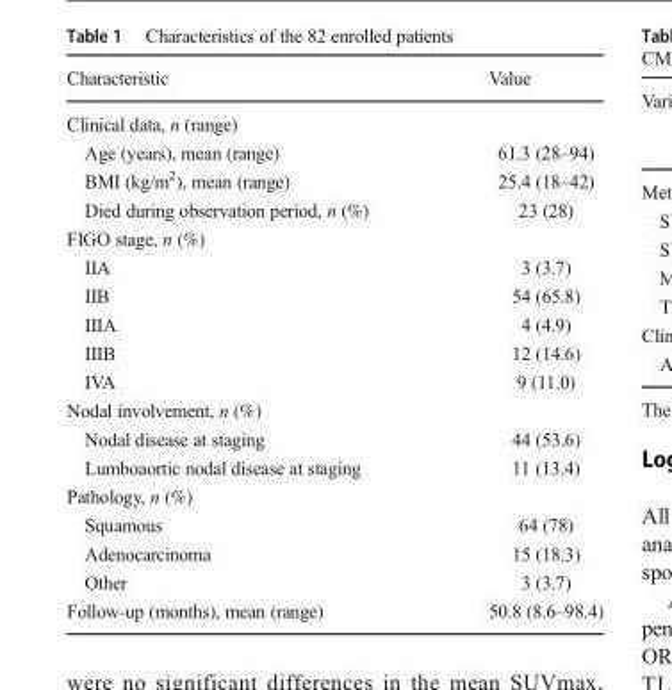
<table><thead><tr><td>Characteristic</td><td>Value</td></tr></thead><tbody><tr><td colspan="2">Clinical data, n (range)</td></tr><tr><td>Age (years), mean (range)</td><td>61.3 (28–94)</td></tr><tr><td>BMI (kg/m<sup>2</sup>), mean (range)</td><td>25.4 (18–42)</td></tr><tr><td>Died during observation period, n (%)</td><td>23 (28)</td></tr><tr><td colspan="2">FIGO stage, n (%)</td></tr><tr><td>IIA</td><td>3 (3.7)</td></tr><tr><td>IIB</td><td>54 (65.8)</td></tr><tr><td>IIIA</td><td>4 (4.9)</td></tr><tr><td>IIIB</td><td>12 (14.6)</td></tr><tr><td>IVA</td><td>9 (11.0)</td></tr><tr><td colspan="2">Nodal involvement, n (%)</td></tr><tr><td>Nodal disease at staging</td><td>44 (53.6)</td></tr><tr><td>Lumboaortic nodal disease at staging</td><td>11 (13.4)</td></tr><tr><td colspan="2">Pathology, n (%)</td></tr><tr><td>Squamous</td><td>64 (78)</td></tr><tr><td>Adenocarcinoma</td><td>15 (18.3)</td></tr><tr><td>Other</td><td>3 (3.7)</td></tr><tr><td>Follow-up (months), mean (range)</td><td>50.8 (8.6–98.4)</td></tr></tbody></table>